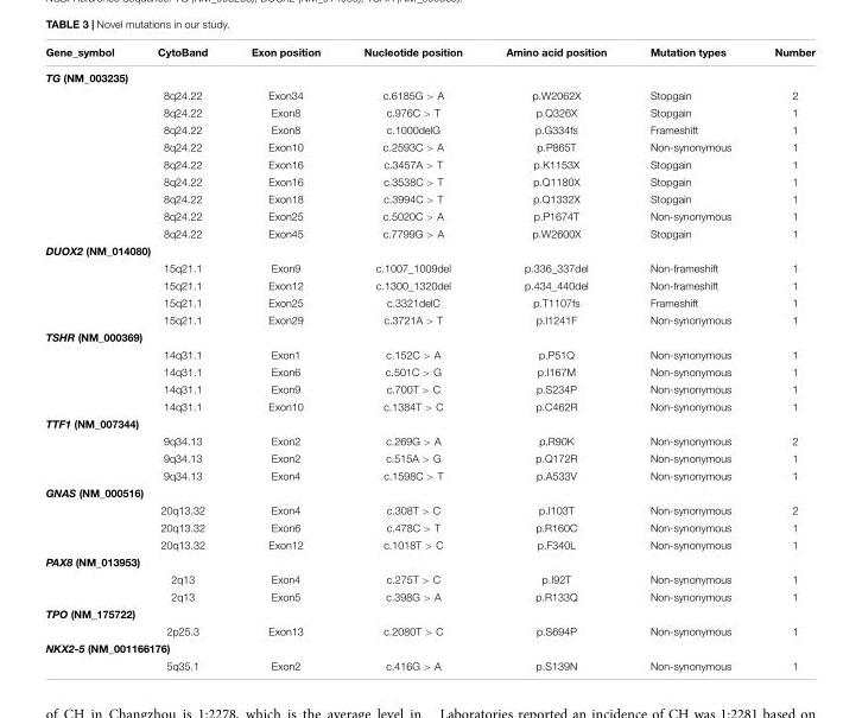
<table><thead><tr><td>Gene_symbol</td><td>CytoBand</td><td>Exon position</td><td>Nucleotide position</td><td>Amino acid position</td><td>Mutation types</td><td>Number</td></tr></thead><tbody><tr><td colspan="7">TG (NM_003235)</td></tr><tr><td></td><td>8q24.22</td><td>Exon34</td><td>c.6185G &gt; A</td><td>p.W2062X</td><td>Stopgain</td><td>2</td></tr><tr><td></td><td>8q24.22</td><td>Exon8</td><td>c.976C &gt; T</td><td>p.Q326X</td><td>Stopgain</td><td>1</td></tr><tr><td></td><td>8q24.22</td><td>Exon8</td><td>c.1000delG</td><td>p.G334fs</td><td>Frameshift</td><td>1</td></tr><tr><td></td><td>8q24.22</td><td>Exon10</td><td>c.2593C &gt; A</td><td>p.P865T</td><td>Non-synonymous</td><td>1</td></tr><tr><td></td><td>8q24.22</td><td>Exon16</td><td>c.3457A &gt; T</td><td>p.K1153X</td><td>Stopgain</td><td>1</td></tr><tr><td></td><td>8q24.22</td><td>Exon16</td><td>c.3538C &gt; T</td><td>p.Q1180X</td><td>Stopgain</td><td>1</td></tr><tr><td></td><td>8q24.22</td><td>Exon18</td><td>c.3994C &gt; T</td><td>p.Q1332X</td><td>Stopgain</td><td>1</td></tr><tr><td></td><td>8q24.22</td><td>Exon25</td><td>c.5020C &gt; A</td><td>p.P1674T</td><td>Non-synonymous</td><td>1</td></tr><tr><td></td><td>8q24.22</td><td>Exon45</td><td>c.7799G &gt; A</td><td>p.W2600X</td><td>Stopgain</td><td>1</td></tr><tr><td colspan="7">DUOX2 (NM_014080)</td></tr><tr><td></td><td>15q21.1</td><td>Exon9</td><td>c.1007_1009del</td><td>p.336_337del</td><td>Non-frameshift</td><td>1</td></tr><tr><td></td><td>15q21.1</td><td>Exon12</td><td>c.1300_1320del</td><td>p.434_440del</td><td>Non-frameshift</td><td>1</td></tr><tr><td></td><td>15q21.1</td><td>Exon25</td><td>c.3321delC</td><td>p.T1107fs</td><td>Frameshift</td><td>1</td></tr><tr><td></td><td>15q21.1</td><td>Exon29</td><td>c.3721A &gt; T</td><td>p.I1241F</td><td>Non-synonymous</td><td>1</td></tr><tr><td colspan="7">TSHR (NM_000369)</td></tr><tr><td></td><td>14q31.1</td><td>Exon1</td><td>c.152C &gt; A</td><td>p.P51Q</td><td>Non-synonymous</td><td>1</td></tr><tr><td></td><td>14q31.1</td><td>Exon6</td><td>c.501C &gt; G</td><td>p.I167M</td><td>Non-synonymous</td><td>1</td></tr><tr><td></td><td>14q31.1</td><td>Exon9</td><td>c.700T &gt; C</td><td>p.S234P</td><td>Non-synonymous</td><td>1</td></tr><tr><td></td><td>14q31.1</td><td>Exon10</td><td>c.1384T &gt; C</td><td>p.C462R</td><td>Non-synonymous</td><td>1</td></tr><tr><td colspan="7">TTF1 (NM_007344)</td></tr><tr><td></td><td>9q34.13</td><td>Exon2</td><td>c.269G &gt; A</td><td>p.R90K</td><td>Non-synonymous</td><td>2</td></tr><tr><td></td><td>9q34.13</td><td>Exon2</td><td>c.515A &gt; G</td><td>p.Q172R</td><td>Non-synonymous</td><td>1</td></tr><tr><td></td><td>9q34.13</td><td>Exon4</td><td>c.1598C &gt; T</td><td>p.A533V</td><td>Non-synonymous</td><td>1</td></tr><tr><td colspan="7">GNAS (NM_000516)</td></tr><tr><td></td><td>20q13.32</td><td>Exon4</td><td>c.308T &gt; C</td><td>p.I103T</td><td>Non-synonymous</td><td>2</td></tr><tr><td></td><td>20q13.32</td><td>Exon6</td><td>c.478C &gt; T</td><td>p.R160C</td><td>Non-synonymous</td><td>1</td></tr><tr><td></td><td>20q13.32</td><td>Exon12</td><td>c.1018T &gt; C</td><td>p.F340L</td><td>Non-synonymous</td><td>1</td></tr><tr><td colspan="7">PAX8 (NM_013953)</td></tr><tr><td></td><td>2q13</td><td>Exon4</td><td>c.275T &gt; C</td><td>p.I92T</td><td>Non-synonymous</td><td>1</td></tr><tr><td></td><td>2q13</td><td>Exon5</td><td>c.398G &gt; A</td><td>p.R133Q</td><td>Non-synonymous</td><td>1</td></tr><tr><td colspan="7">TPO (NM_175722)</td></tr><tr><td></td><td>2p25.3</td><td>Exon13</td><td>c.2080T &gt; C</td><td>p.S694P</td><td>Non-synonymous</td><td>1</td></tr><tr><td colspan="7">NKX2-5 (NM_001166176)</td></tr><tr><td></td><td>5q35.1</td><td>Exon2</td><td>c.416G &gt; A</td><td>p.S139N</td><td>Non-synonymous</td><td>1</td></tr></tbody></table>